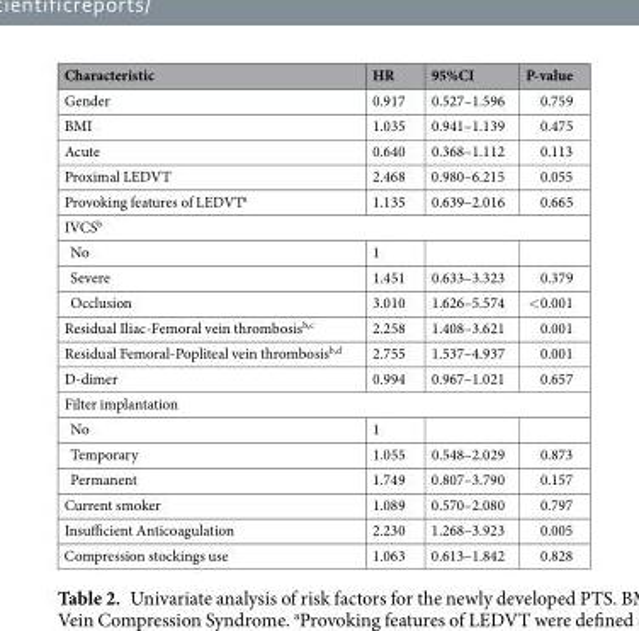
<table><thead><tr><td>Characteristic</td><td>HR</td><td>95%CI</td><td>P-value</td></tr></thead><tbody><tr><td>Gender</td><td>0.917</td><td>0.527–1.596</td><td>0.759</td></tr><tr><td>BMI</td><td>1.035</td><td>0.941–1.139</td><td>0.475</td></tr><tr><td>Acute</td><td>0.640</td><td>0.368–1.112</td><td>0.113</td></tr><tr><td>Proximal LEDVT</td><td>2.468</td><td>0.980–6.215</td><td>0.055</td></tr><tr><td>Provoking features of LEDVT<sup>a</sup></td><td>1.135</td><td>0.639–2.016</td><td>0.665</td></tr><tr><td colspan="4">IVCS<sup>b</sup></td></tr><tr><td>No</td><td>1</td><td></td><td></td></tr><tr><td>Severe</td><td>1.451</td><td>0.633–3.323</td><td>0.379</td></tr><tr><td>Occlusion</td><td>3.010</td><td>1.626–5.574</td><td>&lt;0.001</td></tr><tr><td>Residual Iliac-Femoral vein thrombosis<sup>b,c</sup></td><td>2.258</td><td>1.408–3.621</td><td>0.001</td></tr><tr><td>Residual Femoral-Popliteal vein thrombosis<sup>b,d</sup></td><td>2.755</td><td>1.537–4.937</td><td>0.001</td></tr><tr><td>D-dimer</td><td>0.994</td><td>0.967–1.021</td><td>0.657</td></tr><tr><td colspan="4">Filter implantation</td></tr><tr><td>No</td><td>1</td><td></td><td></td></tr><tr><td>Temporary</td><td>1.055</td><td>0.548–2.029</td><td>0.873</td></tr><tr><td>Permanent</td><td>1.749</td><td>0.807–3.790</td><td>0.157</td></tr><tr><td>Current smoker</td><td>1.089</td><td>0.570–2.080</td><td>0.797</td></tr><tr><td>Insufficient Anticoagulation</td><td>2.230</td><td>1.268–3.923</td><td>0.005</td></tr><tr><td>Compression stockings use</td><td>1.063</td><td>0.613–1.842</td><td>0.828</td></tr></tbody></table>